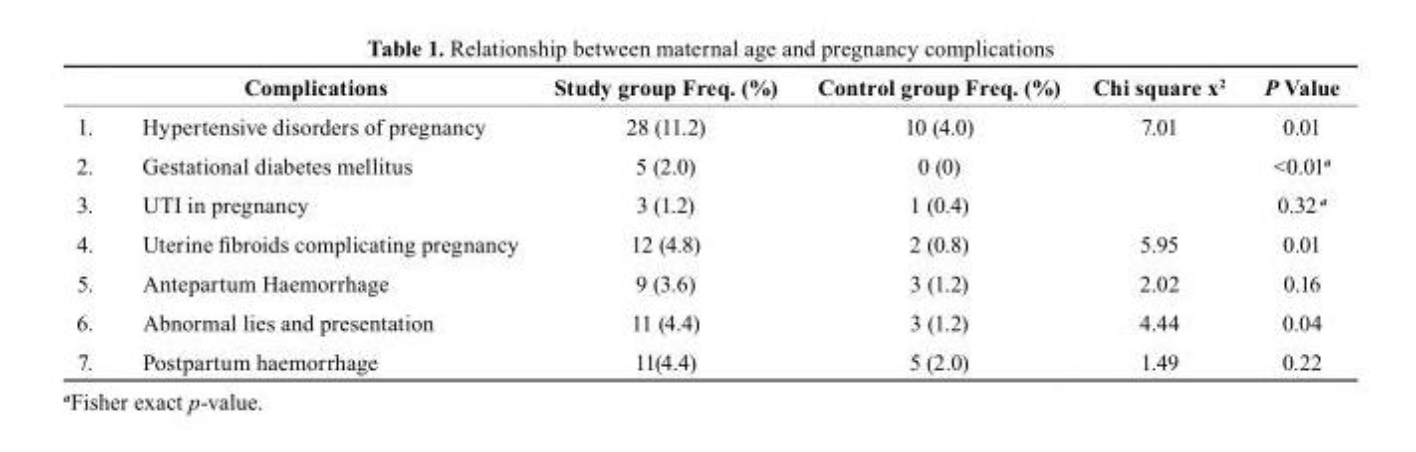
<table><thead><tr><td></td><td>complications</td><td>Study group Freq. (%)</td><td>Control group Freq. (%)</td><td>chi square x<sup>2</sup></td><td>P Value</td></tr></thead><tbody><tr><td>1.</td><td>Hypertensive disorders of pregnancy</td><td>28 (11.2)</td><td>10 (4.0)</td><td>7.01</td><td>0.01</td></tr><tr><td>2.</td><td>Gestational diabetes mellitus</td><td>5 (2.0)</td><td>0 (0)</td><td></td><td>&lt;0.01<sup>a</sup></td></tr><tr><td>3.</td><td>UTI in pregnancy</td><td>3 (1.2)</td><td>1 (0.4)</td><td></td><td>0.32 <sup>a</sup></td></tr><tr><td>4.</td><td>Uterine fibroids complicating pregnancy</td><td>12 (4.8)</td><td>2 (0.8)</td><td>5.95</td><td>0.01</td></tr><tr><td>5.</td><td>Antepartum Haemorrhage</td><td>9 (3.6)</td><td>3 (1.2)</td><td>2.02</td><td>0.16</td></tr><tr><td>6.</td><td>Abnormal lies and presentation</td><td>11 (4.4)</td><td>3 (1.2)</td><td>4.44</td><td>0.04</td></tr><tr><td>7.</td><td>Postpartum haemorrhage</td><td>11(4.4)</td><td>5 (2.0)</td><td>1.49</td><td>0.22</td></tr></tbody></table>